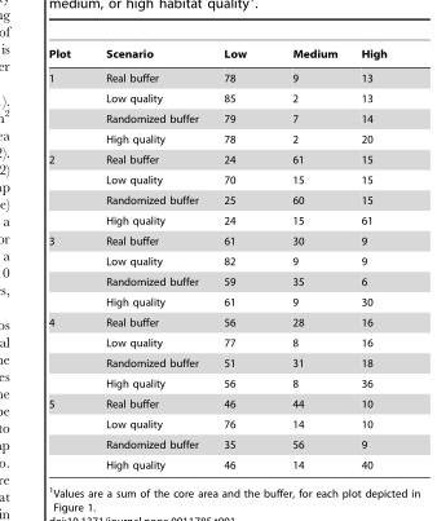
<table><thead><tr><td>Plot</td><td>Scenario</td><td>Low</td><td>Medium</td><td>High</td></tr></thead><tbody><tr><td rowspan="4">1</td><td>Real buffer</td><td>78</td><td>9</td><td>13</td></tr><tr><td>Low quality</td><td>85</td><td>2</td><td>13</td></tr><tr><td>Randomized buffer</td><td>79</td><td>7</td><td>14</td></tr><tr><td>High quality</td><td>78</td><td>2</td><td>20</td></tr><tr><td rowspan="4">2</td><td>Real buffer</td><td>24</td><td>61</td><td>15</td></tr><tr><td>Low quality</td><td>70</td><td>15</td><td>15</td></tr><tr><td>Randomized buffer</td><td>25</td><td>60</td><td>15</td></tr><tr><td>High quality</td><td>24</td><td>15</td><td>61</td></tr><tr><td rowspan="4">3</td><td>Real buffer</td><td>61</td><td>30</td><td>9</td></tr><tr><td>Low quality</td><td>82</td><td>9</td><td>9</td></tr><tr><td>Randomized buffer</td><td>59</td><td>35</td><td>6</td></tr><tr><td>High quality</td><td>61</td><td>9</td><td>30</td></tr><tr><td rowspan="4">4</td><td>Real buffer</td><td>56</td><td>28</td><td>16</td></tr><tr><td>Low quality</td><td>77</td><td>8</td><td>16</td></tr><tr><td>Randomized buffer</td><td>51</td><td>31</td><td>18</td></tr><tr><td>High quality</td><td>56</td><td>8</td><td>36</td></tr><tr><td rowspan="4">5</td><td>Real buffer</td><td>46</td><td>44</td><td>10</td></tr><tr><td>Low quality</td><td>76</td><td>14</td><td>10</td></tr><tr><td>Randomized buffer</td><td>35</td><td>56</td><td>9</td></tr><tr><td>High quality</td><td>46</td><td>14</td><td>40</td></tr></tbody></table>